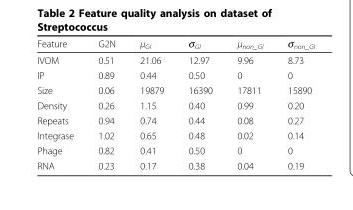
<table><thead><tr><td>Feature</td><td>G2N</td><td>µ<sub>GI</sub></td><td>σ<sub>GI</sub></td><td>µ<sub>non_GI</sub></td><td>σ<sub>non_GI</sub></td></tr></thead><tbody><tr><td>IVOM</td><td>0.51</td><td>21.06</td><td>12.97</td><td>9.96</td><td>8.73</td></tr><tr><td>IP</td><td>0.89</td><td>0.44</td><td>0.50</td><td>0</td><td>0</td></tr><tr><td>Size</td><td>0.06</td><td>19879</td><td>16390</td><td>17811</td><td>15890</td></tr><tr><td>Density</td><td>0.26</td><td>1.15</td><td>0.40</td><td>0.99</td><td>0.20</td></tr><tr><td>Repeats</td><td>0.94</td><td>0.74</td><td>0.44</td><td>0.08</td><td>0.27</td></tr><tr><td>Integrase</td><td>1.02</td><td>0.65</td><td>0.48</td><td>0.02</td><td>0.14</td></tr><tr><td>Phage</td><td>0.82</td><td>0.41</td><td>0.50</td><td>0</td><td>0</td></tr><tr><td>RNA</td><td>0.23</td><td>0.17</td><td>0.38</td><td>0.04</td><td>0.19</td></tr></tbody></table>